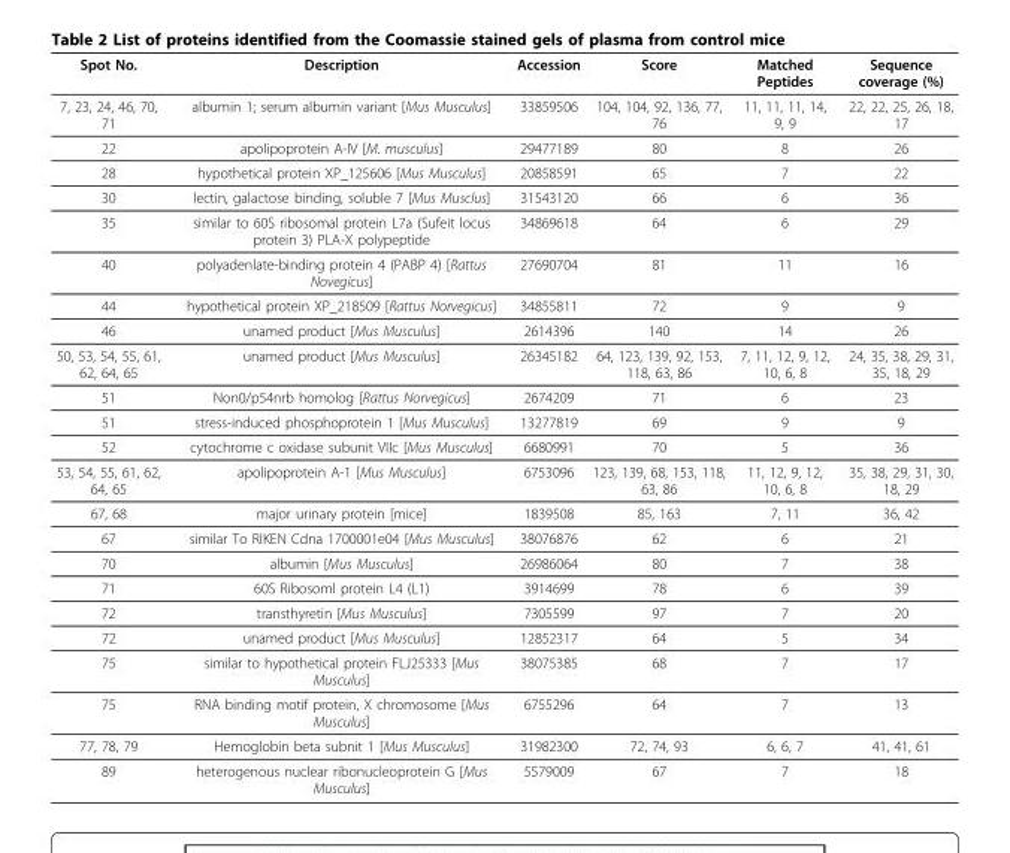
<table><thead><tr><td>Spot No.</td><td>Description</td><td>Accession</td><td>Score</td><td>Matched Peptides</td><td>Sequence coverage (%)</td></tr></thead><tbody><tr><td>7, 23, 24, 46, 70, 71</td><td>albumin 1; serum albumin variant [Mus Musculus]</td><td>33859506</td><td>104, 104, 92, 136, 77, 76</td><td>11, 11, 11, 14, 9, 9</td><td>22, 22, 25, 26, 18, 17</td></tr><tr><td>22</td><td>apolipoprotein A-IV [M. musculus]</td><td>29477189</td><td>80</td><td>8</td><td>26</td></tr><tr><td>28</td><td>hypothetical protein XP_125606 [Mus Musculus]</td><td>20858591</td><td>65</td><td>7</td><td>22</td></tr><tr><td>30</td><td>lectin, galactose binding, soluble 7 [Mus Musclus]</td><td>31543120</td><td>66</td><td>6</td><td>36</td></tr><tr><td>35</td><td>similar to 60S ribosomal protein L7a (Sufeit locus protein 3) PLA-X polypeptide</td><td>34869618</td><td>64</td><td>6</td><td>29</td></tr><tr><td>40</td><td>polyadenlate-binding protein 4 (PABP 4) [Rattus Novegicus]</td><td>27690704</td><td>81</td><td>11</td><td>16</td></tr><tr><td>44</td><td>hypothetical protein XP_218509 [Rattus Norvegicus]</td><td>34855811</td><td>72</td><td>9</td><td>9</td></tr><tr><td>46</td><td>unamed product [Mus Musculus]</td><td>2614396</td><td>140</td><td>14</td><td>26</td></tr><tr><td>50, 53, 54, 55, 61, 62, 64, 65</td><td>unamed product [Mus Musculus]</td><td>26345182</td><td>64, 123, 139, 92, 153, 118, 63, 86</td><td>7, 11, 12, 9, 12, 10, 6, 8</td><td>24, 35, 38, 29, 31, 35, 18, 29</td></tr><tr><td>51</td><td>Non0/p54nrb homolog [Rattus Norvegicus]</td><td>2674209</td><td>71</td><td>6</td><td>23</td></tr><tr><td>51</td><td>stress-induced phosphoprotein 1 [Mus Musculus]</td><td>13277819</td><td>69</td><td>9</td><td>9</td></tr><tr><td>52</td><td>cytochrome c oxidase subunit VIIc [Mus Musculus]</td><td>6680991</td><td>70</td><td>5</td><td>36</td></tr><tr><td>53, 54, 55, 61, 62, 64, 65</td><td>apolipoprotein A-1 [Mus Musculus]</td><td>6753096</td><td>123, 139, 68, 153, 118, 63, 86</td><td>11, 12, 9, 12, 10, 6, 8</td><td>35, 38, 29, 31, 30, 18, 29</td></tr><tr><td>67, 68</td><td>major urinary protein [mice]</td><td>1839508</td><td>85, 163</td><td>7, 11</td><td>36, 42</td></tr><tr><td>67</td><td>similar To RIKEN Cdna 1700001e04 [Mus Musculus]</td><td>38076876</td><td>62</td><td>6</td><td>21</td></tr><tr><td>70</td><td>albumin [Mus Musculus]</td><td>26986064</td><td>80</td><td>7</td><td>38</td></tr><tr><td>71</td><td>60S Ribosoml protein L4 (L1)</td><td>3914699</td><td>78</td><td>6</td><td>39</td></tr><tr><td>72</td><td>transthyretin [Mus Musculus]</td><td>7305599</td><td>97</td><td>7</td><td>20</td></tr><tr><td>72</td><td>unamed product [Mus Musculus]</td><td>12852317</td><td>64</td><td>5</td><td>34</td></tr><tr><td>75</td><td>similar to hypothetical protein FLJ25333 [Mus Musculus]</td><td>38075385</td><td>68</td><td>7</td><td>17</td></tr><tr><td>75</td><td>RNA binding motif protein, X chromosome [Mus Musculus]</td><td>6755296</td><td>64</td><td>7</td><td>13</td></tr><tr><td>77, 78, 79</td><td>Hemoglobin beta subnit 1 [Mus Musculus]</td><td>31982300</td><td>72, 74, 93</td><td>6, 6, 7</td><td>41, 41, 61</td></tr><tr><td>89</td><td>heterogenous nuclear ribonucleoprotein G [Mus Musculus]</td><td>5579009</td><td>67</td><td>7</td><td>18</td></tr></tbody></table>